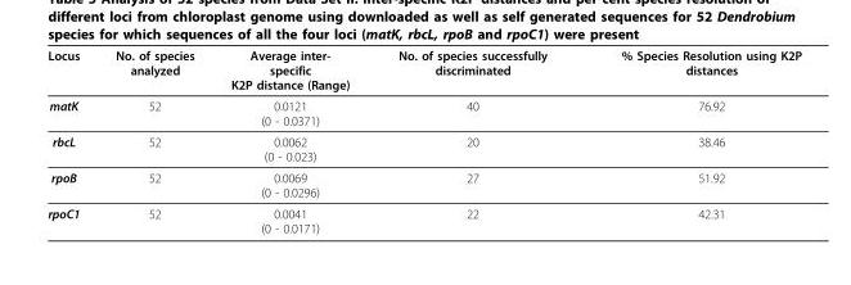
<table><thead><tr><td>Locus</td><td>No. of species analyzed</td><td>Average inter- specific K2P distance (Range)</td><td>No. of species successfully discriminated</td><td>% Species Resolution using K2P distances</td></tr></thead><tbody><tr><td>matK</td><td>52</td><td>0.0121 (0 - 0.0371)</td><td>40</td><td>76.92</td></tr><tr><td>rbcL</td><td>52</td><td>0.0062 (0 - 0.023)</td><td>20</td><td>38.46</td></tr><tr><td>rpoB</td><td>52</td><td>0.0069 (0 - 0.0296)</td><td>27</td><td>51.92</td></tr><tr><td>rpoC1</td><td>52</td><td>0.0041 (0 - 0.0171)</td><td>22</td><td>42.31</td></tr></tbody></table>